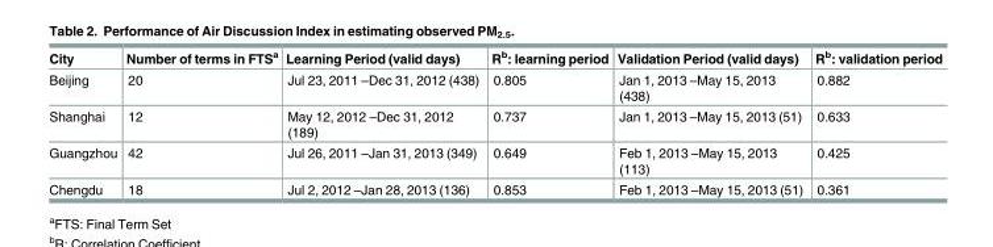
<table><thead><tr><td>City</td><td>Number of terms in FTS<sup>a</sup></td><td>Learning Period (valid days)</td><td>R<sup>b</sup>: learning period</td><td>Validation Period (valid days)</td><td>R<sup>b</sup>: validation period</td></tr></thead><tbody><tr><td>Beijing</td><td>20</td><td>Jul 23, 2011 –Dec 31, 2012 (438)</td><td>0.805</td><td>Jan 1, 2013 –May 15, 2013 (438)</td><td>0.882</td></tr><tr><td>Shanghai</td><td>12</td><td>May 12, 2012 –Dec 31, 2012 (189)</td><td>0.737</td><td>Jan 1, 2013 –May 15, 2013 (51)</td><td>0.633</td></tr><tr><td>Guangzhou</td><td>42</td><td>Jul 26, 2011 –Jan 31, 2013 (349)</td><td>0.649</td><td>Feb 1, 2013 –May 15, 2013 (113)</td><td>0.425</td></tr><tr><td>Chengdu</td><td>18</td><td>Jul 2, 2012 –Jan 28, 2013 (136)</td><td>0.853</td><td>Feb 1, 2013 –May 15, 2013 (51)</td><td>0.361</td></tr></tbody></table>